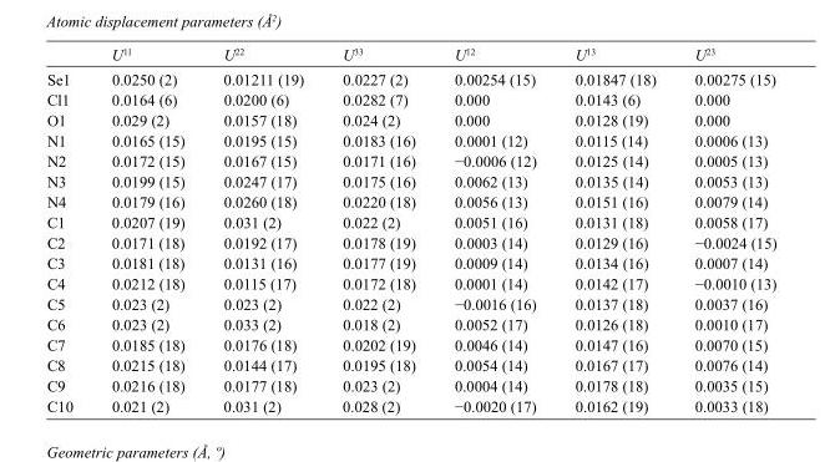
<table><thead><tr><td></td><td>U<sup>11</sup></td><td>U<sup>22</sup></td><td>U<sup>33</sup></td><td>U<sup>12</sup></td><td>U<sup>13</sup></td><td>U<sup>23</sup></td></tr></thead><tbody><tr><td>Se1</td><td>0.0250 (2)</td><td>0.01211 (19)</td><td>0.0227 (2)</td><td>0.00254 (15)</td><td>0.01847 (18)</td><td>0.00275 (15)</td></tr><tr><td>Cl1</td><td>0.0164 (6)</td><td>0.0200 (6)</td><td>0.0282 (7)</td><td>0.000</td><td>0.0143 (6)</td><td>0.000</td></tr><tr><td>O1</td><td>0.029 (2)</td><td>0.0157 (18)</td><td>0.024 (2)</td><td>0.000</td><td>0.0128 (19)</td><td>0.000</td></tr><tr><td>N1</td><td>0.0165 (15)</td><td>0.0195 (15)</td><td>0.0183 (16)</td><td>0.0001 (12)</td><td>0.0115 (14)</td><td>0.0006 (13)</td></tr><tr><td>N2</td><td>0.0172 (15)</td><td>0.0167 (15)</td><td>0.0171 (16)</td><td>−0.0006 (12)</td><td>0.0125 (14)</td><td>0.0005 (13)</td></tr><tr><td>N3</td><td>0.0199 (15)</td><td>0.0247 (17)</td><td>0.0175 (16)</td><td>0.0062 (13)</td><td>0.0135 (14)</td><td>0.0053 (13)</td></tr><tr><td>N4</td><td>0.0179 (16)</td><td>0.0260 (18)</td><td>0.0220 (18)</td><td>0.0056 (13)</td><td>0.0151 (16)</td><td>0.0079 (14)</td></tr><tr><td>C1</td><td>0.0207 (19)</td><td>0.031 (2)</td><td>0.022 (2)</td><td>0.0051 (16)</td><td>0.0131 (18)</td><td>0.0058 (17)</td></tr><tr><td>C2</td><td>0.0171 (18)</td><td>0.0192 (17)</td><td>0.0178 (19)</td><td>0.0003 (14)</td><td>0.0129 (16)</td><td>−0.0024 (15)</td></tr><tr><td>C3</td><td>0.0181 (18)</td><td>0.0131 (16)</td><td>0.0177 (19)</td><td>0.0009 (14)</td><td>0.0134 (16)</td><td>0.0007 (14)</td></tr><tr><td>C4</td><td>0.0212 (18)</td><td>0.0115 (17)</td><td>0.0172 (18)</td><td>0.0001 (14)</td><td>0.0142 (17)</td><td>−0.0010 (13)</td></tr><tr><td>C5</td><td>0.023 (2)</td><td>0.023 (2)</td><td>0.022 (2)</td><td>−0.0016 (16)</td><td>0.0137 (18)</td><td>0.0037 (16)</td></tr><tr><td>C6</td><td>0.023 (2)</td><td>0.033 (2)</td><td>0.018 (2)</td><td>0.0052 (17)</td><td>0.0126 (18)</td><td>0.0010 (17)</td></tr><tr><td>C7</td><td>0.0185 (18)</td><td>0.0176 (18)</td><td>0.0202 (19)</td><td>0.0046 (14)</td><td>0.0147 (16)</td><td>0.0070 (15)</td></tr><tr><td>C8</td><td>0.0215 (18)</td><td>0.0144 (17)</td><td>0.0195 (18)</td><td>0.0054 (14)</td><td>0.0167 (17)</td><td>0.0076 (14)</td></tr><tr><td>C9</td><td>0.0216 (18)</td><td>0.0177 (18)</td><td>0.023 (2)</td><td>0.0004 (14)</td><td>0.0178 (18)</td><td>0.0035 (15)</td></tr><tr><td>C10</td><td>0.021 (2)</td><td>0.031 (2)</td><td>0.028 (2)</td><td>−0.0020 (17)</td><td>0.0162 (19)</td><td>0.0033 (18)</td></tr></tbody></table>